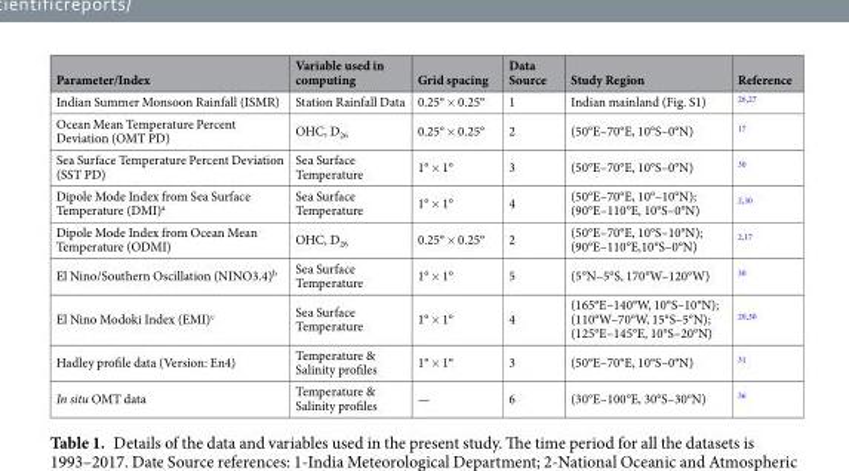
<table><thead><tr><td>Parameter/Index</td><td>Variable used in computing</td><td>Grid spacing</td><td>Data Source</td><td>Study Region</td><td>Reference</td></tr></thead><tbody><tr><td>Indian Summer Monsoon Rainfall (ISMR)</td><td>Station Rainfall Data</td><td>0.25° × 0.25°</td><td>1</td><td>Indian mainland (Fig. S1)</td><td><sup>26,27</sup></td></tr><tr><td>Ocean Mean Temperature Percent Deviation (OMT PD)</td><td>OHC, D<sub>26</sub></td><td>0.25° × 0.25°</td><td>2</td><td>(50°E–70°E, 10°S–0°N)</td><td><sup>17</sup></td></tr><tr><td>Sea Surface Temperature Percent Deviation (SST PD)</td><td>Sea Surface Temperature</td><td>1° × 1°</td><td>3</td><td>(50°E–70°E, 10°S–0°N)</td><td><sup>30</sup></td></tr><tr><td>Dipole Mode Index from Sea Surface Temperature (DMI)<sup>a</sup></td><td>Sea Surface Temperature</td><td>1° × 1°</td><td>4</td><td>(50°E–70°E, 10°–10°N); (90°E–110°E, 10°S–0°N)</td><td><sup>2,30</sup></td></tr><tr><td>Dipole Mode Index from Ocean Mean Temperature (ODMI)</td><td>OHC, D<sub>26</sub></td><td>0.25° × 0.25°</td><td>2</td><td>(50°E–70°E, 10°S–10°N); (90°E–110°E,10°S–0°N)</td><td><sup>2,17</sup></td></tr><tr><td>El Nino/Southern Oscillation (NINO3.4)<sup>b</sup></td><td>Sea Surface Temperature</td><td>1° × 1°</td><td>5</td><td>(5°N–5°S, 170°W–120°W)</td><td><sup>30</sup></td></tr><tr><td>El Nino Modoki Index (EMI)<sup>c</sup></td><td>Sea Surface Temperature</td><td>1° × 1°</td><td>4</td><td>(165°E–140°W, 10°S–10°N); (110°W–70°W, 15°S–5°N); (125°E–145°E, 10°S–20°N)</td><td><sup>20,30</sup></td></tr><tr><td>Hadley profile data (Version: En4)</td><td>Temperature &amp; Salinity profiles</td><td>1° × 1°</td><td>3</td><td>(50°E–70°E, 10°S–0°N)</td><td><sup>31</sup></td></tr><tr><td>In situ OMT data</td><td>Temperature &amp; Salinity profiles</td><td>—</td><td>6</td><td>(30°E–100°E, 30°S–30<sup>o</sup>N)</td><td><sup>36</sup></td></tr></tbody></table>